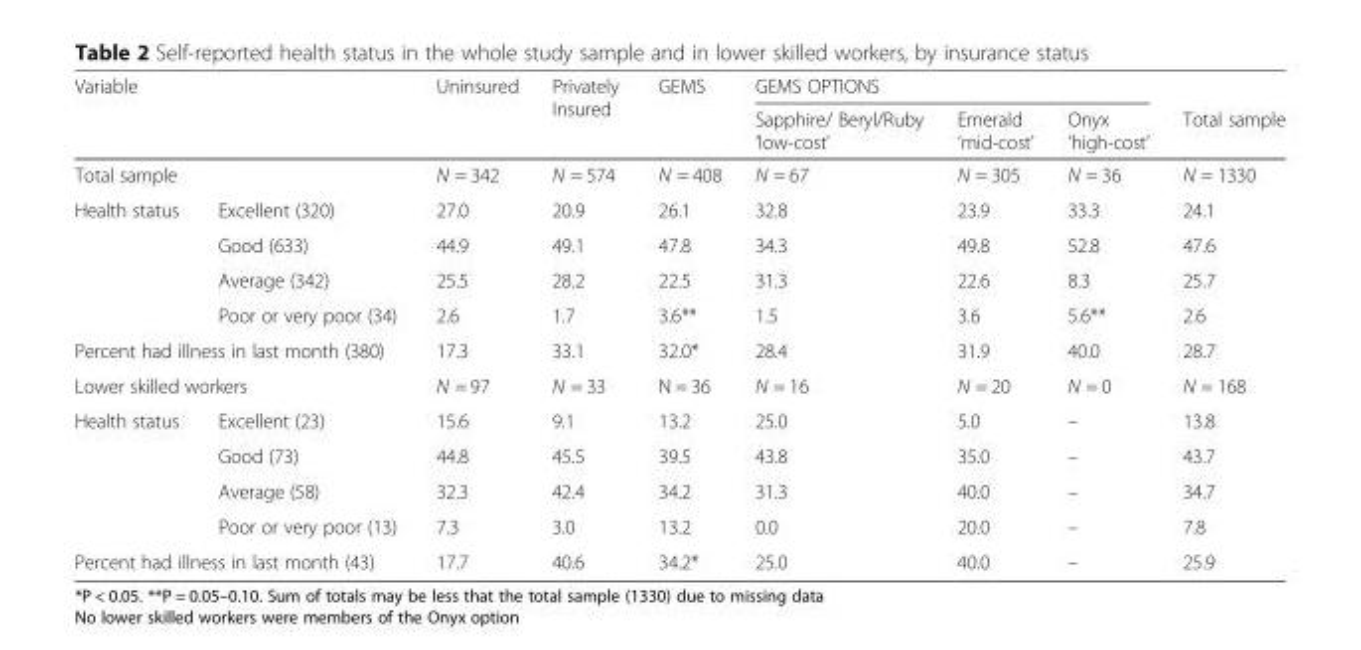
<table><thead><tr><td rowspan="2">Variable</td><td rowspan="2"></td><td rowspan="2">Uninsured</td><td rowspan="2">Privately Insured</td><td rowspan="2">GEMS</td><td colspan="3">GEMS OPTIONS</td><td rowspan="2">Total sample</td></tr><tr><td>Sapphire/ Beryl/Ruby ‘low-cost’</td><td>Emerald ‘mid-cost’</td><td>Onyx ‘high-cost’</td></tr></thead><tbody><tr><td colspan="2">Total sample</td><td>N = 342</td><td>N = 574</td><td>N = 408</td><td>N = 67</td><td>N = 305</td><td>N = 36</td><td>N = 1330</td></tr><tr><td rowspan="4">Health status</td><td>Excellent (320)</td><td>27.0</td><td>20.9</td><td>26.1</td><td>32.8</td><td>23.9</td><td>33.3</td><td>24.1</td></tr><tr><td>Good (633)</td><td>44.9</td><td>49.1</td><td>47.8</td><td>34.3</td><td>49.8</td><td>52.8</td><td>47.6</td></tr><tr><td>Average (342)</td><td>25.5</td><td>28.2</td><td>22.5</td><td>31.3</td><td>22.6</td><td>8.3</td><td>25.7</td></tr><tr><td>Poor or very poor (34)</td><td>2.6</td><td>1.7</td><td>3.6**</td><td>1.5</td><td>3.6</td><td>5.6**</td><td>2.6</td></tr><tr><td colspan="2">Percent had illness in last month (380)</td><td>17.3</td><td>33.1</td><td>32.0*</td><td>28.4</td><td>31.9</td><td>40.0</td><td>28.7</td></tr><tr><td colspan="2">Lower skilled workers</td><td>N = 97</td><td>N = 33</td><td>N = 36</td><td>N = 16</td><td>N = 20</td><td>N = 0</td><td>N = 168</td></tr><tr><td rowspan="4">Health status</td><td>Excellent (23)</td><td>15.6</td><td>9.1</td><td>13.2</td><td>25.0</td><td>5.0</td><td>–</td><td>13.8</td></tr><tr><td>Good (73)</td><td>44.8</td><td>45.5</td><td>39.5</td><td>43.8</td><td>35.0</td><td>–</td><td>43.7</td></tr><tr><td>Average (58)</td><td>32.3</td><td>42.4</td><td>34.2</td><td>31.3</td><td>40.0</td><td>–</td><td>34.7</td></tr><tr><td>Poor or very poor (13)</td><td>7.3</td><td>3.0</td><td>13.2</td><td>0.0</td><td>20.0</td><td>–</td><td>7.8</td></tr><tr><td colspan="2">Percent had illness in last month (43)</td><td>17.7</td><td>40.6</td><td>34.2*</td><td>25.0</td><td>40.0</td><td>–</td><td>25.9</td></tr></tbody></table>